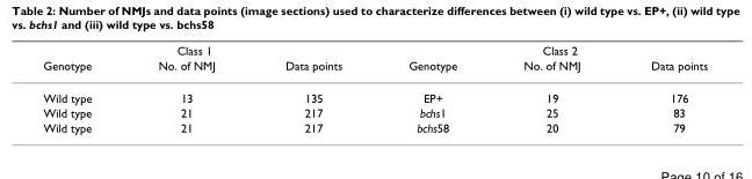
<table><thead><tr><td colspan="3">Class 1</td><td colspan="3">Class 2</td></tr><tr><td>Genotype</td><td>No. of NMJ</td><td>Data points</td><td>Genotype</td><td>No. of NMJ</td><td>Data points</td></tr></thead><tbody><tr><td>Wild type</td><td>13</td><td>135</td><td>EP+</td><td>19</td><td>176</td></tr><tr><td>Wild type</td><td>21</td><td>217</td><td>bchs1</td><td>25</td><td>83</td></tr><tr><td>Wild type</td><td>21</td><td>217</td><td>bchs58</td><td>20</td><td>79</td></tr></tbody></table>